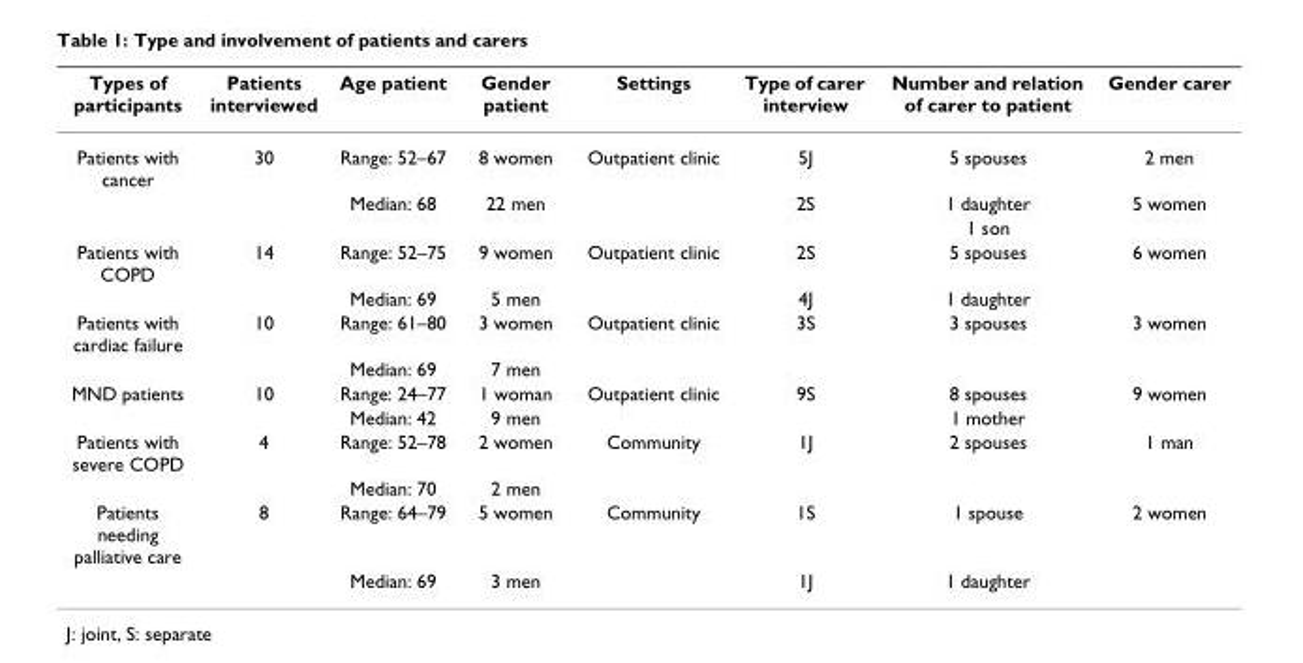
<table><thead><tr><td>Types of participants</td><td>Patients interviewed</td><td>Age patient</td><td>Gender patient</td><td>Settings</td><td>Type of carer interview</td><td>Number and relation of carer to patient</td><td>Gender carer</td></tr></thead><tbody><tr><td rowspan="3">Patients with cancer</td><td>30</td><td>Range: 52–67</td><td>8 women</td><td>Outpatient clinic</td><td>5J</td><td>5 spouses</td><td>2 men</td></tr><tr><td></td><td>Median: 68</td><td>22 men</td><td></td><td>2S</td><td>1 daughter</td><td>5 women</td></tr><tr><td></td><td></td><td></td><td></td><td></td><td>1 son</td><td></td></tr><tr><td rowspan="2">Patients with COPD</td><td>14</td><td>Range: 52–75</td><td>9 women</td><td>Outpatient clinic</td><td>2S</td><td>5 spouses</td><td>6 women</td></tr><tr><td></td><td>Median: 69</td><td>5 men</td><td></td><td>4J</td><td>1 daughter</td><td></td></tr><tr><td rowspan="2">Patients with cardiac failure</td><td>10</td><td>Range: 61–80</td><td>3 women</td><td>Outpatient clinic</td><td>3S</td><td>3 spouses</td><td>3 women</td></tr><tr><td></td><td>Median: 69</td><td>7 men</td><td></td><td></td><td></td><td></td></tr><tr><td rowspan="2">MND patients</td><td>10</td><td>Range: 24–77</td><td>1 woman</td><td>Outpatient clinic</td><td>9S</td><td>8 spouses</td><td>9 women</td></tr><tr><td></td><td>Median: 42</td><td>9 men</td><td></td><td></td><td>1 mother</td><td></td></tr><tr><td rowspan="2">Patients with severe COPD</td><td>4</td><td>Range: 52–78</td><td>2 women</td><td>Community</td><td>1J</td><td>2 spouses</td><td>1 man</td></tr><tr><td></td><td>Median: 70</td><td>2 men</td><td></td><td></td><td></td><td></td></tr><tr><td rowspan="2">Patients needing palliative care</td><td>8</td><td>Range: 64–79</td><td>5 women</td><td>Community</td><td>1S</td><td>1 spouse</td><td>2 women</td></tr><tr><td></td><td>Median: 69</td><td>3 men</td><td></td><td>1J</td><td>1 daughter</td><td></td></tr></tbody></table>